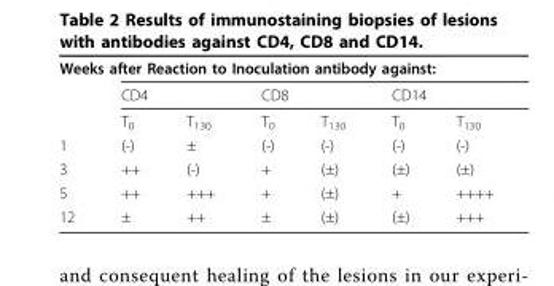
<table><tbody><tr><td colspan="7">Weeks after Reaction to Inoculation antibody against:</td></tr><tr><td></td><td colspan="2">CD4</td><td colspan="2">CD8</td><td colspan="2">CD14</td></tr><tr><td></td><td>T<sub>0</sub></td><td>T<sub>130</sub></td><td>T<sub>0</sub></td><td>T<sub>130</sub></td><td>T<sub>0</sub></td><td>T<sub>130</sub></td></tr><tr><td>1</td><td>(-)</td><td>±</td><td>(-)</td><td>(-)</td><td>(-)</td><td>(-)</td></tr><tr><td>3</td><td>++</td><td>(-)</td><td>+</td><td>(±)</td><td>(±)</td><td>(±)</td></tr><tr><td>5</td><td>++</td><td>+++</td><td>+</td><td>(±)</td><td>+</td><td>++++</td></tr><tr><td>12</td><td>±</td><td>++</td><td>±</td><td>(±)</td><td>(±)</td><td>+++</td></tr></tbody></table>